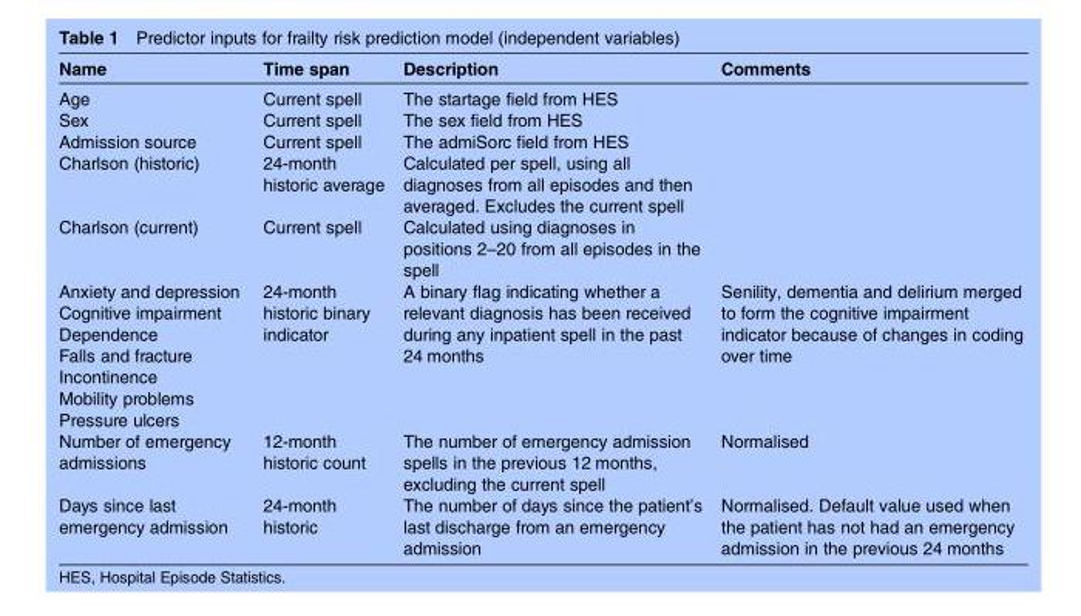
<table><thead><tr><td>Name</td><td>Time span</td><td>Description</td><td>Comments</td></tr></thead><tbody><tr><td>Age</td><td>Current spell</td><td>The startage field from HES</td><td></td></tr><tr><td>Sex</td><td>Current spell</td><td>The sex field from HES</td><td></td></tr><tr><td>Admission source</td><td>Current spell</td><td>The admiSorc field from HES</td><td></td></tr><tr><td>Charlson (historic)</td><td>24-month historic average</td><td>Calculated per spell, using all diagnoses from all episodes and then averaged. Excludes the current spell</td><td rowspan="2"></td></tr><tr><td>Charlson (current)</td><td>Current spell</td><td>Calculated using diagnoses in positions 2–20 from all episodes in the spell</td></tr><tr><td>Anxiety and depression</td><td rowspan="7">24-month historic binary indicator</td><td rowspan="7">A binary flag indicating whether a relevant diagnosis has been received during any inpatient spell in the past 24 months</td><td rowspan="7">Senility, dementia and delirium merged to form the cognitive impairment indicator because of changes in coding over time</td></tr><tr><td>Cognitive impairment</td></tr><tr><td>Dependence</td></tr><tr><td>Falls and fracture</td></tr><tr><td>Incontinence</td></tr><tr><td>Mobility problems</td></tr><tr><td>Pressure ulcers</td></tr><tr><td>Number of emergency admissions</td><td>12-month historic count</td><td>The number of emergency admission spells in the previous 12 months, excluding the current spell</td><td>Normalised</td></tr><tr><td>Days since last emergency admission</td><td>24-month historic</td><td>The number of days since the patient’s last discharge from an emergency admission</td><td>Normalised. Default value used when the patient has not had an emergency admission in the previous 24 months</td></tr></tbody></table>